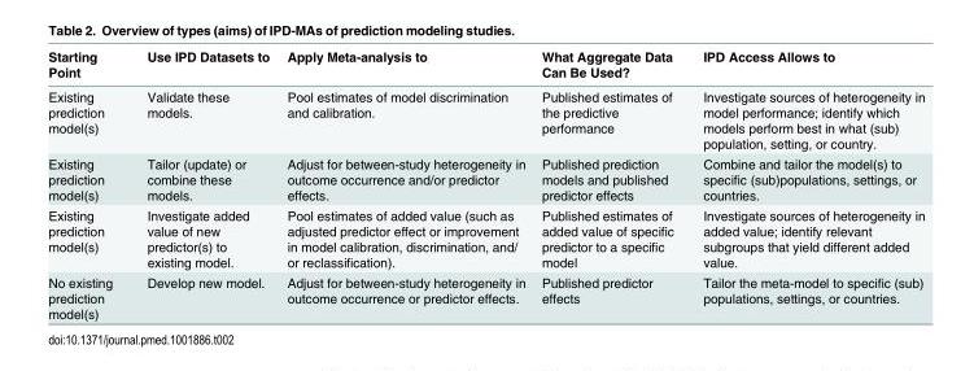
<table><thead><tr><td>Starting Point</td><td>Use IPD Datasets to</td><td>Apply Meta-analysis to</td><td>What Aggregate Data Can Be Used?</td><td>IPD Access Allows to</td></tr></thead><tbody><tr><td>Existing prediction model(s)</td><td>Validate these models.</td><td>Pool estimates of model discrimination and calibration.</td><td>Published estimates of the predictive performance</td><td>Investigate sources of heterogeneity in model performance; identify which models perform best in what (sub) population, setting, or country.</td></tr><tr><td>Existing prediction model(s)</td><td>Tailor (update) or combine these models.</td><td>Adjust for between-study heterogeneity in outcome occurrence and/or predictor effects.</td><td>Published prediction models and published predictor effects</td><td>Combine and tailor the model(s) to specific (sub)populations, settings, or countries.</td></tr><tr><td>Existing prediction model(s)</td><td>Investigate added value of new predictor(s) to existing model.</td><td>Pool estimates of added value (such as adjusted predictor effect or improvement in model calibration, discrimination, and/ or reclassification).</td><td>Published estimates of added value of specific predictor to a specific model</td><td>Investigate sources of heterogeneity in added value; identify relevant subgroups that yield different added value.</td></tr><tr><td>No existing prediction model(s)</td><td>Develop new model.</td><td>Adjust for between-study heterogeneity in outcome occurrence or predictor effects.</td><td>Published predictor effects</td><td>Tailor the meta-model to specific (sub) populations, settings, or countries.</td></tr></tbody></table>